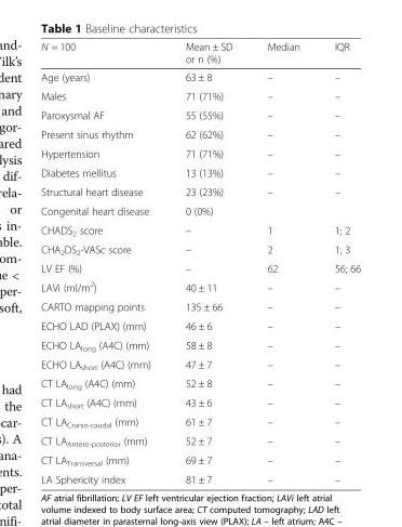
<table><thead><tr><td>N = 100</td><td>Mean ± SD or n (%)</td><td>Median</td><td>IQR</td></tr></thead><tbody><tr><td>Age (years)</td><td>63 ± 8</td><td>–</td><td>–</td></tr><tr><td>Males</td><td>71 (71%)</td><td>–</td><td>–</td></tr><tr><td>Paroxysmal AF</td><td>55 (55%)</td><td>–</td><td>–</td></tr><tr><td>Present sinus rhythm</td><td>62 (62%)</td><td>–</td><td>–</td></tr><tr><td>Hypertension</td><td>71 (71%)</td><td>–</td><td>–</td></tr><tr><td>Diabetes mellitus</td><td>13 (13%)</td><td>–</td><td>–</td></tr><tr><td>Structural heart disease</td><td>23 (23%)</td><td>–</td><td>–</td></tr><tr><td>Congenital heart disease</td><td>0 (0%)</td><td></td><td></td></tr><tr><td>CHADS<sub>2</sub> score</td><td>–</td><td>1</td><td>1; 2</td></tr><tr><td>CHA<sub>2</sub>DS<sub>2</sub>-VASc score</td><td>–</td><td>2</td><td>1; 3</td></tr><tr><td>LV EF (%)</td><td>–</td><td>62</td><td>56; 66</td></tr><tr><td>LAVi (ml/m<sup>2</sup>)</td><td>40 ± 11</td><td>–</td><td>–</td></tr><tr><td>CARTO mapping points</td><td>135 ± 66</td><td>–</td><td>–</td></tr><tr><td>ECHO LAD (PLAX) (mm)</td><td>46 ± 6</td><td>–</td><td>–</td></tr><tr><td>ECHO LA<sub>long</sub> (A4C) (mm)</td><td>58 ± 8</td><td>–</td><td>–</td></tr><tr><td>ECHO LA<sub>short</sub> (A4C) (mm)</td><td>47 ± 7</td><td>–</td><td>–</td></tr><tr><td>CT LA<sub>long</sub> (A4C) (mm)</td><td>52 ± 8</td><td>–</td><td>–</td></tr><tr><td>CT LA<sub>short</sub> (A4C) (mm)</td><td>43 ± 6</td><td>–</td><td>–</td></tr><tr><td>CT LA<sub>Cranio-caudal</sub> (mm)</td><td>61 ± 7</td><td>–</td><td>–</td></tr><tr><td>CT LA<sub>Antero-posterior</sub> (mm)</td><td>52 ± 7</td><td>–</td><td>–</td></tr><tr><td>CT LA<sub>Transversal</sub> (mm)</td><td>69 ± 7</td><td>–</td><td>–</td></tr><tr><td>LA Sphericity index</td><td>81 ± 7</td><td>–</td><td>–</td></tr></tbody></table>